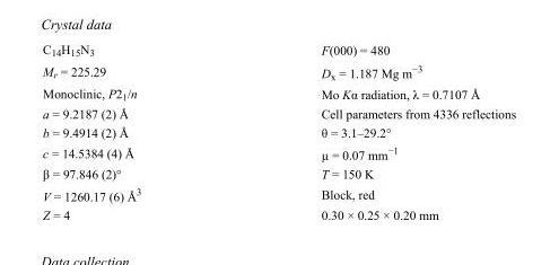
<table><tbody><tr><td>C<sub>14</sub>H<sub>15</sub>N<sub>3</sub></td><td>F(000) = 480</td></tr><tr><td>M<sub>r</sub> = 225.29</td><td>D<sub>x</sub> = 1.187 Mg m<sup>−3</sup></td></tr><tr><td>Monoclinic, P2<sub>1</sub>/n</td><td>Mo Kα radiation, λ = 0.7107 Å</td></tr><tr><td>a = 9.2187 (2) Å</td><td>Cell parameters from 4336 reflections</td></tr><tr><td>b = 9.4914 (2) Å</td><td>θ = 3.1–29.2°</td></tr><tr><td>c = 14.5384 (4) Å</td><td>µ = 0.07 mm<sup>−1</sup></td></tr><tr><td>β = 97.846 (2)°</td><td>T = 150 K</td></tr><tr><td>V = 1260.17 (6) Å<sup>3</sup></td><td>Block, red</td></tr><tr><td>Z = 4</td><td>0.30 × 0.25 × 0.20 mm</td></tr></tbody></table>